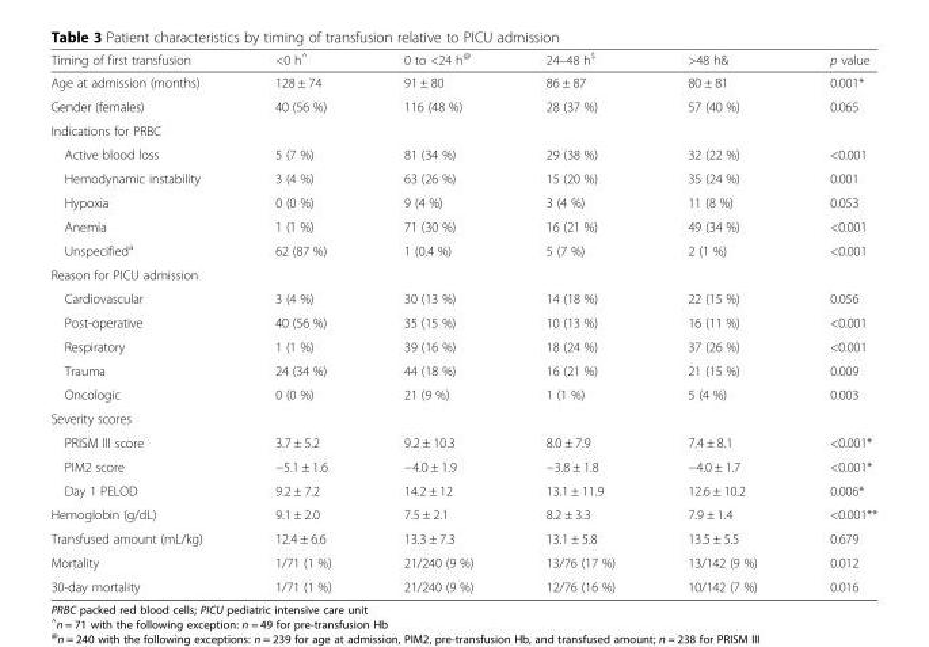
<table><thead><tr><td>Timing of first transfusion</td><td>&lt;0 h<sup>^</sup></td><td>0 to &lt;24 h<sup>@</sup></td><td>24–48 h<sup>$</sup></td><td>&gt;48 h&amp;</td><td>p value</td></tr></thead><tbody><tr><td>Age at admission (months)</td><td>128 ± 74</td><td>91 ± 80</td><td>86 ± 87</td><td>80 ± 81</td><td>0.001*</td></tr><tr><td>Gender (females)</td><td>40 (56 %)</td><td>116 (48 %)</td><td>28 (37 %)</td><td>57 (40 %)</td><td>0.065</td></tr><tr><td colspan="6">Indications for PRBC</td></tr><tr><td>Active blood loss</td><td>5 (7 %)</td><td>81 (34 %)</td><td>29 (38 %)</td><td>32 (22 %)</td><td>&lt;0.001</td></tr><tr><td>Hemodynamic instability</td><td>3 (4 %)</td><td>63 (26 %)</td><td>15 (20 %)</td><td>35 (24 %)</td><td>0.001</td></tr><tr><td>Hypoxia</td><td>0 (0 %)</td><td>9 (4 %)</td><td>3 (4 %)</td><td>11 (8 %)</td><td>0.053</td></tr><tr><td>Anemia</td><td>1 (1 %)</td><td>71 (30 %)</td><td>16 (21 %)</td><td>49 (34 %)</td><td>&lt;0.001</td></tr><tr><td>Unspecified<sup>a</sup></td><td>62 (87 %)</td><td>1 (0.4 %)</td><td>5 (7 %)</td><td>2 (1 %)</td><td>&lt;0.001</td></tr><tr><td colspan="6">Reason for PICU admission</td></tr><tr><td>Cardiovascular</td><td>3 (4 %)</td><td>30 (13 %)</td><td>14 (18 %)</td><td>22 (15 %)</td><td>0.056</td></tr><tr><td>Post-operative</td><td>40 (56 %)</td><td>35 (15 %)</td><td>10 (13 %)</td><td>16 (11 %)</td><td>&lt;0.001</td></tr><tr><td>Respiratory</td><td>1 (1 %)</td><td>39 (16 %)</td><td>18 (24 %)</td><td>37 (26 %)</td><td>&lt;0.001</td></tr><tr><td>Trauma</td><td>24 (34 %)</td><td>44 (18 %)</td><td>16 (21 %)</td><td>21 (15 %)</td><td>0.009</td></tr><tr><td>Oncologic</td><td>0 (0 %)</td><td>21 (9 %)</td><td>1 (1 %)</td><td>5 (4 %)</td><td>0.003</td></tr><tr><td colspan="6">Severity scores</td></tr><tr><td>PRISM III score</td><td>3.7 ± 5.2</td><td>9.2 ± 10.3</td><td>8.0 ± 7.9</td><td>7.4 ± 8.1</td><td>&lt;0.001*</td></tr><tr><td>PIM2 score</td><td>−5.1 ± 1.6</td><td>−4.0 ± 1.9</td><td>−3.8 ± 1.8</td><td>−4.0 ± 1.7</td><td>&lt;0.001*</td></tr><tr><td>Day 1 PELOD</td><td>9.2 ± 7.2</td><td>14.2 ± 12</td><td>13.1 ± 11.9</td><td>12.6 ± 10.2</td><td>0.006*</td></tr><tr><td>Hemoglobin (g/dL)</td><td>9.1 ± 2.0</td><td>7.5 ± 2.1</td><td>8.2 ± 3.3</td><td>7.9 ± 1.4</td><td>&lt;0.001**</td></tr><tr><td>Transfused amount (mL/kg)</td><td>12.4 ± 6.6</td><td>13.3 ± 7.3</td><td>13.1 ± 5.8</td><td>13.5 ± 5.5</td><td>0.679</td></tr><tr><td>Mortality</td><td>1/71 (1 %)</td><td>21/240 (9 %)</td><td>13/76 (17 %)</td><td>13/142 (9 %)</td><td>0.012</td></tr><tr><td>30-day mortality</td><td>1/71 (1 %)</td><td>21/240 (9 %)</td><td>12/76 (16 %)</td><td>10/142 (7 %)</td><td>0.016</td></tr></tbody></table>